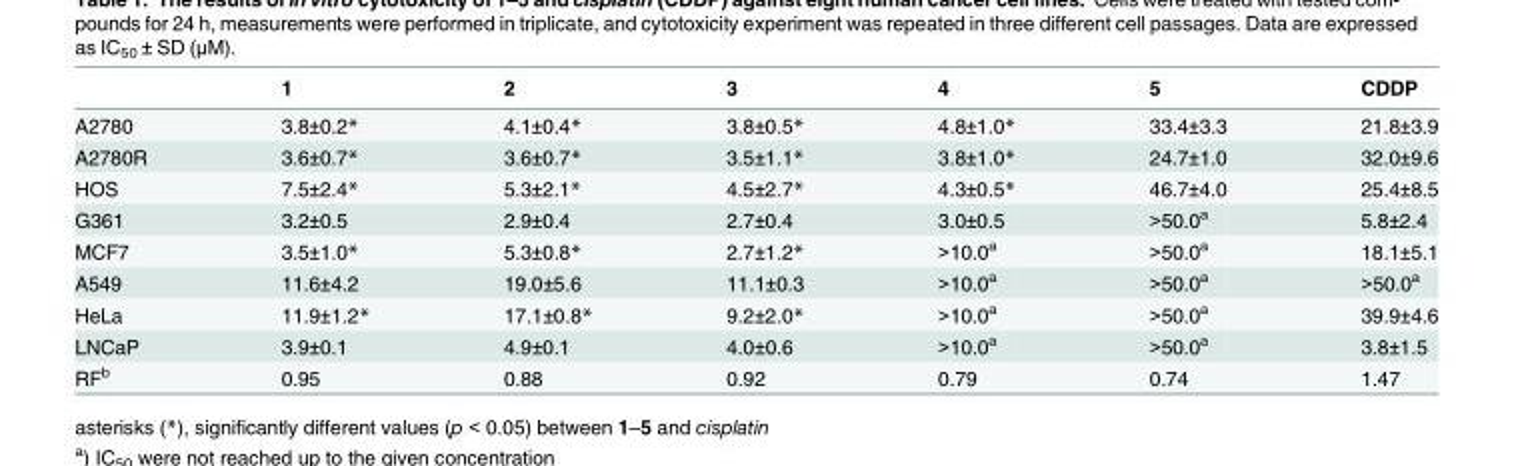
<table><thead><tr><td></td><td>1</td><td>2</td><td>3</td><td>4</td><td>5</td><td>CDDP</td></tr></thead><tbody><tr><td>A2780</td><td>3.8±0.2*</td><td>4.1±0.4*</td><td>3.8±0.5*</td><td>4.8±1.0*</td><td>33.4±3.3</td><td>21.8±3.9</td></tr><tr><td>A2780R</td><td>3.6±0.7*</td><td>3.6±0.7*</td><td>3.5±1.1*</td><td>3.8±1.0*</td><td>24.7±1.0</td><td>32.0±9.6</td></tr><tr><td>HOS</td><td>7.5±2.4*</td><td>5.3±2.1*</td><td>4.5±2.7*</td><td>4.3±0.5*</td><td>46.7±4.0</td><td>25.4±8.5</td></tr><tr><td>G361</td><td>3.2±0.5</td><td>2.9±0.4</td><td>2.7±0.4</td><td>3.0±0.5</td><td>&gt;50.0<sup>a</sup></td><td>5.8±2.4</td></tr><tr><td>MCF7</td><td>3.5±1.0*</td><td>5.3±0.8*</td><td>2.7±1.2*</td><td>&gt;10.0<sup>a</sup></td><td>&gt;50.0<sup>a</sup></td><td>18.1±5.1</td></tr><tr><td>A549</td><td>11.6±4.2</td><td>19.0±5.6</td><td>11.1±0.3</td><td>&gt;10.0<sup>a</sup></td><td>&gt;50.0<sup>a</sup></td><td>&gt;50.0<sup>a</sup></td></tr><tr><td>HeLa</td><td>11.9±1.2*</td><td>17.1±0.8*</td><td>9.2±2.0*</td><td>&gt;10.0<sup>a</sup></td><td>&gt;50.0<sup>a</sup></td><td>39.9±4.6</td></tr><tr><td>LNCaP</td><td>3.9±0.1</td><td>4.9±0.1</td><td>4.0±0.6</td><td>&gt;10.0<sup>a</sup></td><td>&gt;50.0<sup>a</sup></td><td>3.8±1.5</td></tr><tr><td>RF<sup>b</sup></td><td>0.95</td><td>0.88</td><td>0.92</td><td>0.79</td><td>0.74</td><td>1.47</td></tr></tbody></table>